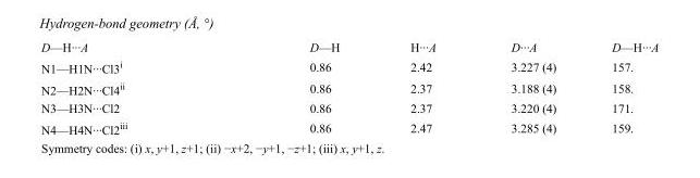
<table><tbody><tr><td>D—H···A</td><td>D—H</td><td>H···A</td><td>D···A</td><td>D—H···A</td></tr><tr><td>N1—H1N···Cl3<sup>i</sup></td><td>0.86</td><td>2.42</td><td>3.227 (4)</td><td>157.</td></tr><tr><td>N2—H2N···Cl4<sup>ii</sup></td><td>0.86</td><td>2.37</td><td>3.188 (4)</td><td>158.</td></tr><tr><td>N3—H3N···Cl2</td><td>0.86</td><td>2.37</td><td>3.220 (4)</td><td>171.</td></tr><tr><td>N4—H4N···Cl2<sup>iii</sup></td><td>0.86</td><td>2.47</td><td>3.285 (4)</td><td>159.</td></tr></tbody></table>